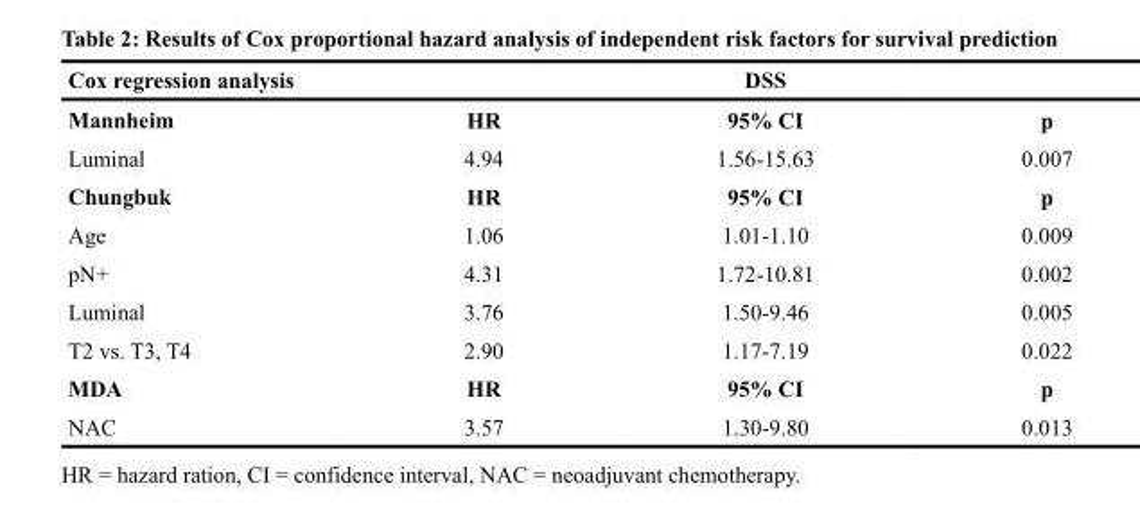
<table><thead><tr><td>Cox regression analysis</td><td></td><td>DSS</td><td></td></tr></thead><tbody><tr><td>Mannheim</td><td>HR</td><td>95% CI</td><td>p</td></tr><tr><td>Luminal</td><td>4.94</td><td>1.56-15.63</td><td>0.007</td></tr><tr><td>Chungbuk</td><td>HR</td><td>95% CI</td><td>p</td></tr><tr><td>Age</td><td>1.06</td><td>1.01-1.10</td><td>0.009</td></tr><tr><td>pN+</td><td>4.31</td><td>1.72-10.81</td><td>0.002</td></tr><tr><td>Luminal</td><td>3.76</td><td>1.50-9.46</td><td>0.005</td></tr><tr><td>T2 vs. T3, T4</td><td>2.90</td><td>1.17-7.19</td><td>0.022</td></tr><tr><td>MDA</td><td>HR</td><td>95% CI</td><td>p</td></tr><tr><td>NAC</td><td>3.57</td><td>1.30-9.80</td><td>0.013</td></tr></tbody></table>